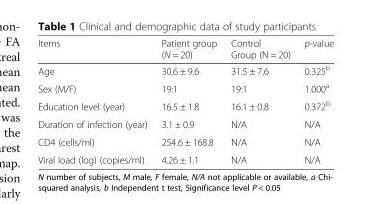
<table><thead><tr><td>Items</td><td>Patient group (N = 20)</td><td>Control Group (N = 20)</td><td>p-value</td></tr></thead><tbody><tr><td>Age</td><td>30.6 ± 9.6</td><td>31.5 ± 7.6</td><td>0.325<sup>b</sup></td></tr><tr><td>Sex (M/F)</td><td>19:1</td><td>19:1</td><td>1.000<sup>a</sup></td></tr><tr><td>Education level (year)</td><td>16.5 ± 1.8</td><td>16.1 ± 0.8</td><td>0.372<sup>b</sup></td></tr><tr><td>Duration of infection (year)</td><td>3.1 ± 0.9</td><td>N/A</td><td>N/A</td></tr><tr><td>CD4 (cells/ml)</td><td>254.6 ± 168.8</td><td>N/A</td><td>N/A</td></tr><tr><td>Viral load (log) (copies/ml)</td><td>4.26 ± 1.1</td><td>N/A</td><td>N/A</td></tr></tbody></table>